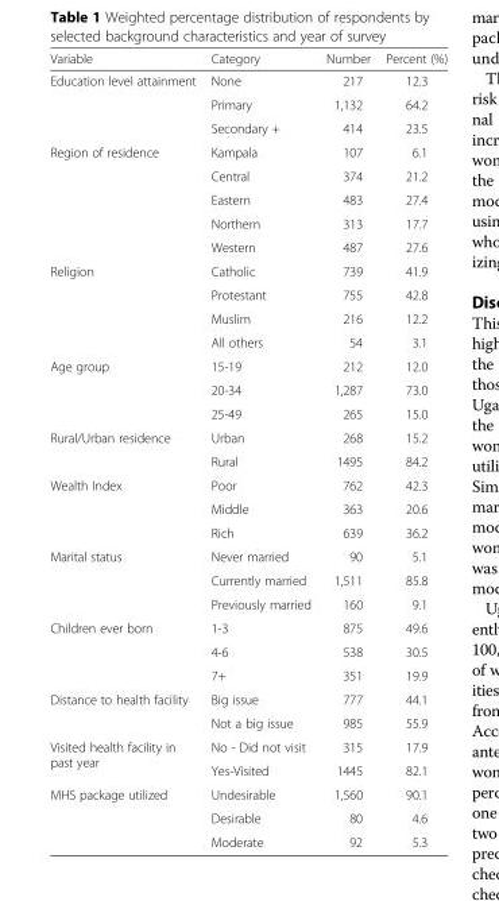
<table><thead><tr><td>Variable</td><td>Category</td><td>Number</td><td>Percent (%)</td></tr></thead><tbody><tr><td rowspan="3">Education level attainment</td><td>None</td><td>217</td><td>12.3</td></tr><tr><td>Primary</td><td>1,132</td><td>64.2</td></tr><tr><td>Secondary +</td><td>414</td><td>23.5</td></tr><tr><td rowspan="5">Region of residence</td><td>Kampala</td><td>107</td><td>6.1</td></tr><tr><td>Central</td><td>374</td><td>21.2</td></tr><tr><td>Eastern</td><td>483</td><td>27.4</td></tr><tr><td>Northern</td><td>313</td><td>17.7</td></tr><tr><td>Western</td><td>487</td><td>27.6</td></tr><tr><td rowspan="4">Religion</td><td>Catholic</td><td>739</td><td>41.9</td></tr><tr><td>Protestant</td><td>755</td><td>42.8</td></tr><tr><td>Muslim</td><td>216</td><td>12.2</td></tr><tr><td>All others</td><td>54</td><td>3.1</td></tr><tr><td rowspan="3">Age group</td><td>15-19</td><td>212</td><td>12.0</td></tr><tr><td>20-34</td><td>1,287</td><td>73.0</td></tr><tr><td>25-49</td><td>265</td><td>15.0</td></tr><tr><td rowspan="2">Rural/Urban residence</td><td>Urban</td><td>268</td><td>15.2</td></tr><tr><td>Rural</td><td>1495</td><td>84.2</td></tr><tr><td rowspan="3">Wealth Index</td><td>Poor</td><td>762</td><td>42.3</td></tr><tr><td>Middle</td><td>363</td><td>20.6</td></tr><tr><td>Rich</td><td>639</td><td>36.2</td></tr><tr><td rowspan="3">Marital status</td><td>Never married</td><td>90</td><td>5.1</td></tr><tr><td>Currently married</td><td>1,511</td><td>85.8</td></tr><tr><td>Previously married</td><td>160</td><td>9.1</td></tr><tr><td rowspan="3">Children ever born</td><td>1-3</td><td>875</td><td>49.6</td></tr><tr><td>4-6</td><td>538</td><td>30.5</td></tr><tr><td>7+</td><td>351</td><td>19.9</td></tr><tr><td rowspan="2">Distance to health facility</td><td>Big issue</td><td>777</td><td>44.1</td></tr><tr><td>Not a big issue</td><td>985</td><td>55.9</td></tr><tr><td rowspan="2">Visited health facility in past year</td><td>No - Did not visit</td><td>315</td><td>17.9</td></tr><tr><td>Yes-Visited</td><td>1445</td><td>82.1</td></tr><tr><td rowspan="3">MHS package utilized</td><td>Undesirable</td><td>1,560</td><td>90.1</td></tr><tr><td>Desirable</td><td>80</td><td>4.6</td></tr><tr><td>Moderate</td><td>92</td><td>5.3</td></tr></tbody></table>